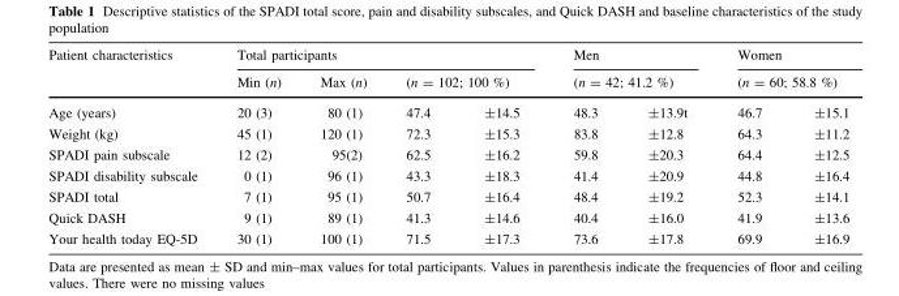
<table><thead><tr><td rowspan="3">Patient characteristics Age (years)</td><td colspan="4">Total participants</td><td rowspan="2" colspan="2">Men (n = 42; 41.2 %)</td><td rowspan="2" colspan="2">Women (n = 60; 58.8 %)</td></tr><tr><td rowspan="2">Min (n) 20 (3)</td><td rowspan="2">Max (n) 80 (1)</td><td colspan="2">(n = 102; 100 %)</td></tr><tr><td>47.4</td><td>±14.5</td><td>48.3</td><td>±13.9t</td><td>46.7</td><td>±15.1</td></tr></thead><tbody><tr><td>Weight (kg)</td><td>45 (1)</td><td>120 (1)</td><td>72.3</td><td>±15.3</td><td>83.8</td><td>±12.8</td><td>64.3</td><td>±11.2</td></tr><tr><td>SPADI pain subscale</td><td>12 (2)</td><td>95(2)</td><td>62.5</td><td>±16.2</td><td>59.8</td><td>±20.3</td><td>64.4</td><td>±12.5</td></tr><tr><td>SPADI disability subscale</td><td>0 (1)</td><td>96 (1)</td><td>43.3</td><td>±18.3</td><td>41.4</td><td>±20.9</td><td>44.8</td><td>±16.4</td></tr><tr><td>SPADI total</td><td>7 (1)</td><td>95 (1)</td><td>50.7</td><td>±16.4</td><td>48.4</td><td>±19.2</td><td>52.3</td><td>±14.1</td></tr><tr><td>Quick DASH</td><td>9 (1)</td><td>89 (1)</td><td>41.3</td><td>±14.6</td><td>40.4</td><td>±16.0</td><td>41.9</td><td>±13.6</td></tr><tr><td>Your health today EQ-5D</td><td>30 (1)</td><td>100 (1)</td><td>71.5</td><td>±17.3</td><td>73.6</td><td>±17.8</td><td>69.9</td><td>±16.9</td></tr></tbody></table>